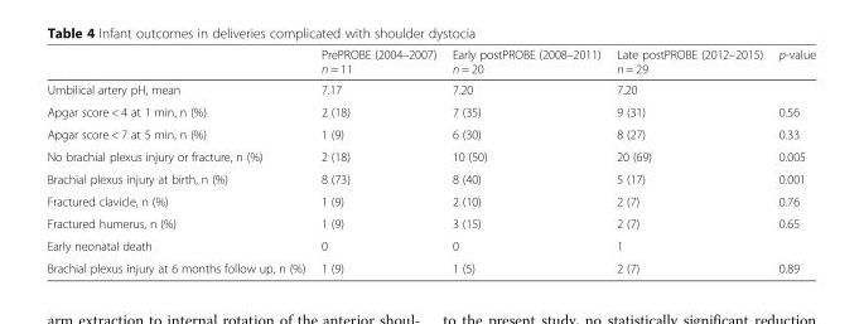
<table><thead><tr><td></td><td>PrePROBE (2004–2007) n = 11</td><td>Early postPROBE (2008–2011) n = 20</td><td>Late postPROBE (2012–2015) n = 29</td><td>p-value</td></tr></thead><tbody><tr><td>Umbilical artery pH, mean</td><td>7.17</td><td>7.20</td><td>7.20</td><td></td></tr><tr><td>Apgar score &lt; 4 at 1 min, n (%)</td><td>2 (18)</td><td>7 (35)</td><td>9 (31)</td><td>0.56</td></tr><tr><td>Apgar score &lt; 7 at 5 min, n (%)</td><td>1 (9)</td><td>6 (30)</td><td>8 (27)</td><td>0.33</td></tr><tr><td>No brachial plexus injury or fracture, n (%)</td><td>2 (18)</td><td>10 (50)</td><td>20 (69)</td><td>0.005</td></tr><tr><td>Brachial plexus injury at birth, n (%)</td><td>8 (73)</td><td>8 (40)</td><td>5 (17)</td><td>0.001</td></tr><tr><td>Fractured clavicle, n (%)</td><td>1 (9)</td><td>2 (10)</td><td>2 (7)</td><td>0.76</td></tr><tr><td>Fractured humerus, n (%)</td><td>1 (9)</td><td>3 (15)</td><td>2 (7)</td><td>0.65</td></tr><tr><td>Early neonatal death</td><td>0</td><td>0</td><td>1</td><td></td></tr><tr><td>Brachial plexus injury at 6 months follow up, n (%)</td><td>1 (9)</td><td>1 (5)</td><td>2 (7)</td><td>0.89</td></tr></tbody></table>